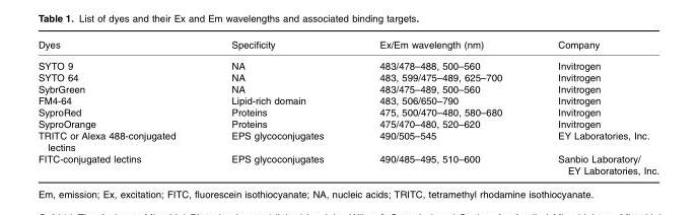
<table><thead><tr><td>Dyes</td><td>Specificity</td><td>Ex/Em wavelength (nm)</td><td>Company</td></tr></thead><tbody><tr><td>SYTO 9</td><td>NA</td><td>483/478–488, 500–560</td><td>Invitrogen</td></tr><tr><td>SYTO 64</td><td>NA</td><td>483, 599/475–489, 625–700</td><td>Invitrogen</td></tr><tr><td>SybrGreen</td><td>NA</td><td>483/475–489, 500–560</td><td>Invitrogen</td></tr><tr><td>FM4-64</td><td>Lipid-rich domain</td><td>483, 506/650–790</td><td>Invitrogen</td></tr><tr><td>SyproRed</td><td>Proteins</td><td>475, 500/470–480, 580–680</td><td>Invitrogen</td></tr><tr><td>SyproOrange</td><td>Proteins</td><td>475/470–480, 520–620</td><td>Invitrogen</td></tr><tr><td>TRITC or Alexa 488-conjugated lectins</td><td>EPS glycoconjugates</td><td>490/505–545</td><td>EY Laboratories, Inc.</td></tr><tr><td>FITC-conjugated lectins</td><td>EPS glycoconjugates</td><td>490/485–495, 510–600</td><td>Sanbio Laboratory/ EY Laboratories, Inc.</td></tr></tbody></table>